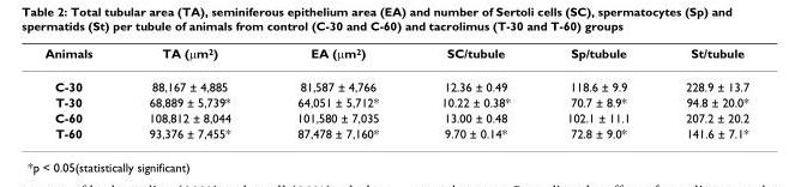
<table><thead><tr><td>Animals</td><td>TA (μm2)</td><td>EA (μm2)</td><td>SC/tubule</td><td>Sp/tubule</td><td>St/tubule</td></tr></thead><tbody><tr><td>C-30</td><td>88,167 ± 4,885</td><td>81,587 ± 4,766</td><td>12.36 ± 0.49</td><td>118.6 ± 9.9</td><td>228.9 ± 13.7</td></tr><tr><td>T-30</td><td>68,889 ± 5,739*</td><td>64,051 ± 5,712*</td><td>10.22 ± 0.38*</td><td>70.7 ± 8.9*</td><td>94.8 ± 20.0*</td></tr><tr><td>C-60</td><td>108,812 ± 8,044</td><td>101,580 ± 7,035</td><td>13.00 ± 0.48</td><td>102.1 ± 11.1</td><td>207.2 ± 20.2</td></tr><tr><td>T-60</td><td>93,376 ± 7,455*</td><td>87,478 ± 7,160*</td><td>9.70 ± 0.14*</td><td>72.8 ± 9.0*</td><td>141.6 ± 7.1*</td></tr></tbody></table>